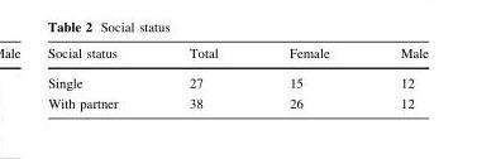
<table><thead><tr><td>Social status</td><td>Total</td><td>Female</td><td>Male</td></tr></thead><tbody><tr><td>Single</td><td>27</td><td>15</td><td>12</td></tr><tr><td>With partner</td><td>38</td><td>26</td><td>12</td></tr></tbody></table>